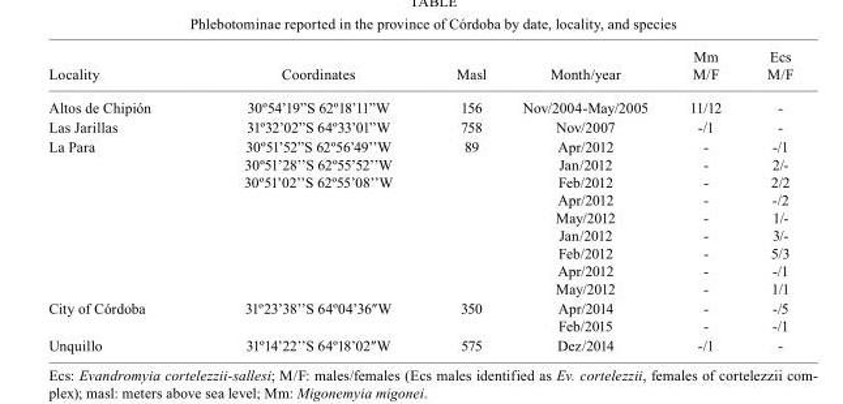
<table><thead><tr><td>Locality</td><td>Coordinates</td><td>Masl</td><td>Month/year</td><td>Mm M/F</td><td>Ecs M/F</td></tr></thead><tbody><tr><td>Altos de Chipión</td><td>30º54’19”S 62º18’11”W</td><td>156</td><td>Nov/2004-May/2005</td><td>11/12</td><td>-</td></tr><tr><td>Las Jarillas</td><td>31º32’02”S 64º33’01”W</td><td>758</td><td>Nov/2007</td><td>-/1</td><td>-</td></tr><tr><td rowspan="9">La Para</td><td>30º51’52”S 62º56’49’’W</td><td>89</td><td>Apr/2012</td><td>-</td><td>-/1</td></tr><tr><td>30º51’28’’S 62º55’52’’W</td><td></td><td>Jan/2012</td><td>-</td><td>2/-</td></tr><tr><td>30º51’02’’S 62º55’08’’W</td><td></td><td>Feb/2012</td><td>-</td><td>2/2</td></tr><tr><td></td><td></td><td>Apr/2012</td><td>-</td><td>-/2</td></tr><tr><td></td><td></td><td>May/2012</td><td>-</td><td>1/-</td></tr><tr><td></td><td></td><td>Jan/2012</td><td>-</td><td>3/-</td></tr><tr><td></td><td></td><td>Feb/2012</td><td>-</td><td>5/3</td></tr><tr><td></td><td></td><td>Apr/2012</td><td>-</td><td>-/1</td></tr><tr><td></td><td></td><td>May/2012</td><td>-</td><td>1/1</td></tr><tr><td rowspan="2">City of Córdoba</td><td>31º23’38’’S 64º04’36″W</td><td>350</td><td>Apr/2014</td><td>-</td><td>-/5</td></tr><tr><td></td><td></td><td>Feb/2015</td><td>-</td><td>-/1</td></tr><tr><td>Unquillo</td><td>31º14’22’’S 64º18’02″W</td><td>575</td><td>Dez/2014</td><td>-/1</td><td>-</td></tr></tbody></table>